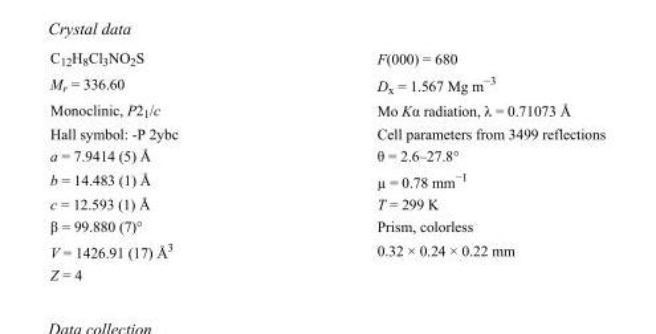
<table><tbody><tr><td>C<sub>12</sub>H<sub>8</sub>Cl<sub>3</sub>NO<sub>2</sub>S</td><td>F(000) = 680</td></tr><tr><td>M<sub>r</sub> = 336.60</td><td>D<sub>x</sub> = 1.567 Mg m<sup>−3</sup></td></tr><tr><td>Monoclinic, P2<sub>1</sub>/c</td><td>Mo Kα radiation, λ = 0.71073 Å</td></tr><tr><td>Hall symbol: -P 2ybc</td><td>Cell parameters from 3499 reflections</td></tr><tr><td>a = 7.9414 (5) Å</td><td>θ = 2.6–27.8°</td></tr><tr><td>b = 14.483 (1) Å</td><td>µ = 0.78 mm<sup>−1</sup></td></tr><tr><td>c = 12.593 (1) Å</td><td>T = 299 K</td></tr><tr><td>β = 99.880 (7)°</td><td>Prism, colorless</td></tr><tr><td>V = 1426.91 (17) Å<sup>3</sup></td><td>0.32 × 0.24 × 0.22 mm</td></tr><tr><td>Z = 4</td><td></td></tr></tbody></table>